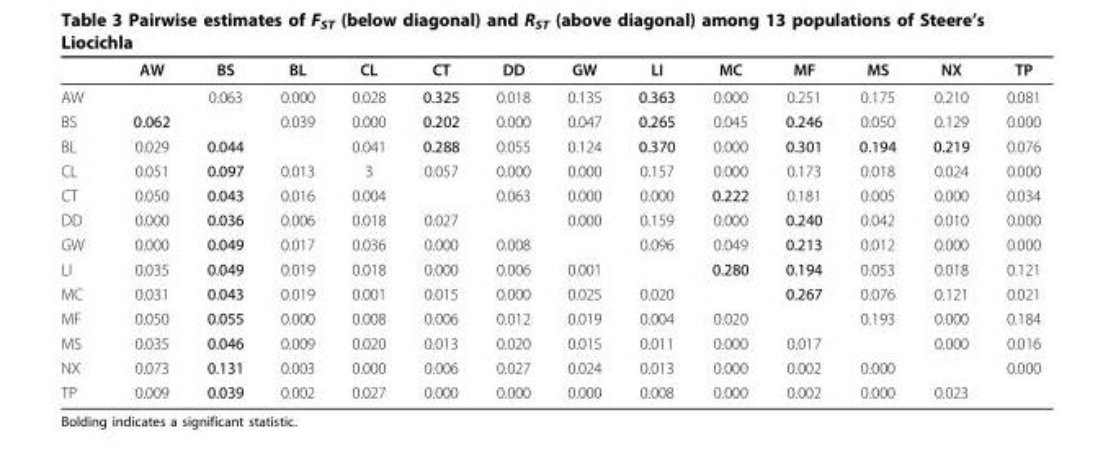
<table><thead><tr><td></td><td>AW</td><td>BS</td><td>BL</td><td>CL</td><td>CT</td><td>DD</td><td>GW</td><td>LI</td><td>MC</td><td>MF</td><td>MS</td><td>NX</td><td>TP</td></tr></thead><tbody><tr><td>AW</td><td></td><td>0.063</td><td>0.000</td><td>0.028</td><td>0.325</td><td>0.018</td><td>0.135</td><td>0.363</td><td>0.000</td><td>0.251</td><td>0.175</td><td>0.210</td><td>0.081</td></tr><tr><td>BS</td><td>0.062</td><td></td><td>0.039</td><td>0.000</td><td>0.202</td><td>0.000</td><td>0.047</td><td>0.265</td><td>0.045</td><td>0.246</td><td>0.050</td><td>0.129</td><td>0.000</td></tr><tr><td>BL</td><td>0.029</td><td>0.044</td><td></td><td>0.041</td><td>0.288</td><td>0.055</td><td>0.124</td><td>0.370</td><td>0.000</td><td>0.301</td><td>0.194</td><td>0.219</td><td>0.076</td></tr><tr><td>CL</td><td>0.051</td><td>0.097</td><td>0.013</td><td>3</td><td>0.057</td><td>0.000</td><td>0.000</td><td>0.157</td><td>0.000</td><td>0.173</td><td>0.018</td><td>0.024</td><td>0.000</td></tr><tr><td>CT</td><td>0.050</td><td>0.043</td><td>0.016</td><td>0.004</td><td></td><td>0.063</td><td>0.000</td><td>0.000</td><td>0.222</td><td>0.181</td><td>0.005</td><td>0.000</td><td>0.034</td></tr><tr><td>DD</td><td>0.000</td><td>0.036</td><td>0.006</td><td>0.018</td><td>0.027</td><td></td><td>0.000</td><td>0.159</td><td>0.000</td><td>0.240</td><td>0.042</td><td>0.010</td><td>0.000</td></tr><tr><td>GW</td><td>0.000</td><td>0.049</td><td>0.017</td><td>0.036</td><td>0.000</td><td>0.008</td><td></td><td>0.096</td><td>0.049</td><td>0.213</td><td>0.012</td><td>0.000</td><td>0.000</td></tr><tr><td>LI</td><td>0.035</td><td>0.049</td><td>0.019</td><td>0.018</td><td>0.000</td><td>0.006</td><td>0.001</td><td></td><td>0.280</td><td>0.194</td><td>0.053</td><td>0.018</td><td>0.121</td></tr><tr><td>MC</td><td>0.031</td><td>0.043</td><td>0.019</td><td>0.001</td><td>0.015</td><td>0.000</td><td>0.025</td><td>0.020</td><td></td><td>0.267</td><td>0.076</td><td>0.121</td><td>0.021</td></tr><tr><td>MF</td><td>0.050</td><td>0.055</td><td>0.000</td><td>0.008</td><td>0.006</td><td>0.012</td><td>0.019</td><td>0.004</td><td>0.020</td><td></td><td>0.193</td><td>0.000</td><td>0.184</td></tr><tr><td>MS</td><td>0.035</td><td>0.046</td><td>0.009</td><td>0.020</td><td>0.013</td><td>0.020</td><td>0.015</td><td>0.011</td><td>0.000</td><td>0.017</td><td></td><td>0.000</td><td>0.016</td></tr><tr><td>NX</td><td>0.073</td><td>0.131</td><td>0.003</td><td>0.000</td><td>0.006</td><td>0.027</td><td>0.024</td><td>0.013</td><td>0.000</td><td>0.002</td><td>0.000</td><td></td><td>0.000</td></tr><tr><td>TP</td><td>0.009</td><td>0.039</td><td>0.002</td><td>0.027</td><td>0.000</td><td>0.000</td><td>0.000</td><td>0.008</td><td>0.000</td><td>0.002</td><td>0.000</td><td>0.023</td><td></td></tr></tbody></table>